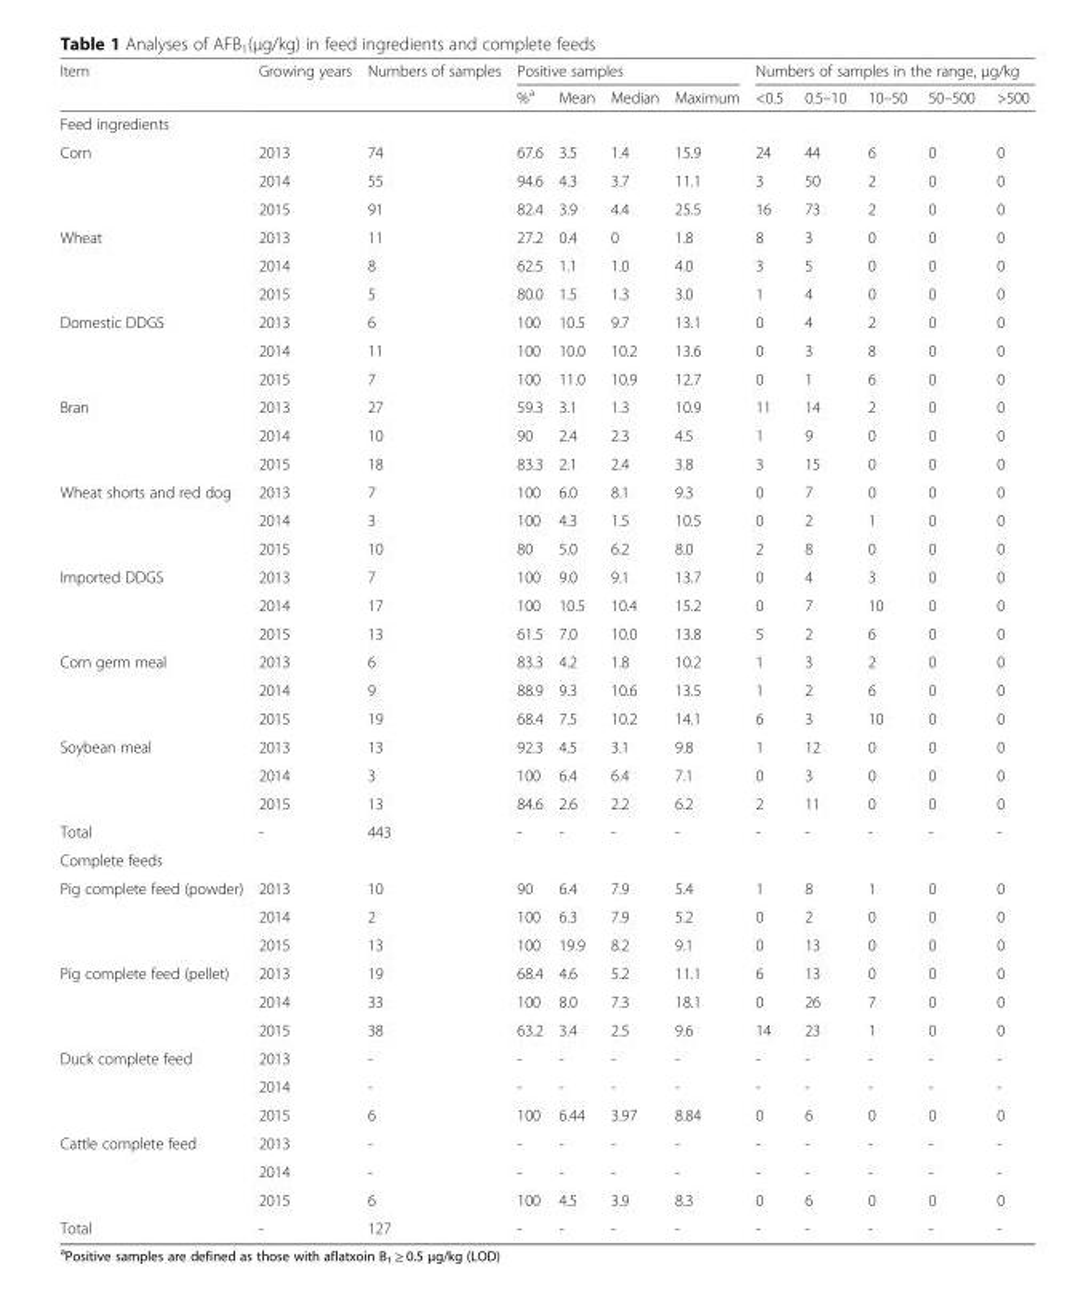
<table><thead><tr><td rowspan="2">Item</td><td rowspan="2">Growing years</td><td rowspan="2">Numbers of samples</td><td colspan="4">Positive samples</td><td colspan="5">Numbers of samples in the range, μg/kg</td></tr><tr><td>%<sup>a</sup></td><td>Mean</td><td>Median</td><td>Maximum</td><td>&lt;0.5</td><td>0.5–10</td><td>10–50</td><td>50–500</td><td>&gt;500</td></tr></thead><tbody><tr><td colspan="12">Feed ingredients</td></tr><tr><td rowspan="3">Corn</td><td>2013</td><td>74</td><td>67.6</td><td>3.5</td><td>1.4</td><td>15.9</td><td>24</td><td>44</td><td>6</td><td>0</td><td>0</td></tr><tr><td>2014</td><td>55</td><td>94.6</td><td>4.3</td><td>3.7</td><td>11.1</td><td>3</td><td>50</td><td>2</td><td>0</td><td>0</td></tr><tr><td>2015</td><td>91</td><td>82.4</td><td>3.9</td><td>4.4</td><td>25.5</td><td>16</td><td>73</td><td>2</td><td>0</td><td>0</td></tr><tr><td rowspan="3">Wheat</td><td>2013</td><td>11</td><td>27.2</td><td>0.4</td><td>0</td><td>1.8</td><td>8</td><td>3</td><td>0</td><td>0</td><td>0</td></tr><tr><td>2014</td><td>8</td><td>62.5</td><td>1.1</td><td>1.0</td><td>4.0</td><td>3</td><td>5</td><td>0</td><td>0</td><td>0</td></tr><tr><td>2015</td><td>5</td><td>80.0</td><td>1.5</td><td>1.3</td><td>3.0</td><td>1</td><td>4</td><td>0</td><td>0</td><td>0</td></tr><tr><td rowspan="3">Domestic DDGS</td><td>2013</td><td>6</td><td>100</td><td>10.5</td><td>9.7</td><td>13.1</td><td>0</td><td>4</td><td>2</td><td>0</td><td>0</td></tr><tr><td>2014</td><td>11</td><td>100</td><td>10.0</td><td>10.2</td><td>13.6</td><td>0</td><td>3</td><td>8</td><td>0</td><td>0</td></tr><tr><td>2015</td><td>7</td><td>100</td><td>11.0</td><td>10.9</td><td>12.7</td><td>0</td><td>1</td><td>6</td><td>0</td><td>0</td></tr><tr><td rowspan="3">Bran</td><td>2013</td><td>27</td><td>59.3</td><td>3.1</td><td>1.3</td><td>10.9</td><td>11</td><td>14</td><td>2</td><td>0</td><td>0</td></tr><tr><td>2014</td><td>10</td><td>90</td><td>2.4</td><td>2.3</td><td>4.5</td><td>1</td><td>9</td><td>0</td><td>0</td><td>0</td></tr><tr><td>2015</td><td>18</td><td>83.3</td><td>2.1</td><td>2.4</td><td>3.8</td><td>3</td><td>15</td><td>0</td><td>0</td><td>0</td></tr><tr><td rowspan="3">Wheat shorts and red dog</td><td>2013</td><td>7</td><td>100</td><td>6.0</td><td>8.1</td><td>9.3</td><td>0</td><td>7</td><td>0</td><td>0</td><td>0</td></tr><tr><td>2014</td><td>3</td><td>100</td><td>4.3</td><td>1.5</td><td>10.5</td><td>0</td><td>2</td><td>1</td><td>0</td><td>0</td></tr><tr><td>2015</td><td>10</td><td>80</td><td>5.0</td><td>6.2</td><td>8.0</td><td>2</td><td>8</td><td>0</td><td>0</td><td>0</td></tr><tr><td rowspan="3">Imported DDGS</td><td>2013</td><td>7</td><td>100</td><td>9.0</td><td>9.1</td><td>13.7</td><td>0</td><td>4</td><td>3</td><td>0</td><td>0</td></tr><tr><td>2014</td><td>17</td><td>100</td><td>10.5</td><td>10.4</td><td>15.2</td><td>0</td><td>7</td><td>10</td><td>0</td><td>0</td></tr><tr><td>2015</td><td>13</td><td>61.5</td><td>7.0</td><td>10.0</td><td>13.8</td><td>5</td><td>2</td><td>6</td><td>0</td><td>0</td></tr><tr><td rowspan="3">Corn germ meal</td><td>2013</td><td>6</td><td>83.3</td><td>4.2</td><td>1.8</td><td>10.2</td><td>1</td><td>3</td><td>2</td><td>0</td><td>0</td></tr><tr><td>2014</td><td>9</td><td>88.9</td><td>9.3</td><td>10.6</td><td>13.5</td><td>1</td><td>2</td><td>6</td><td>0</td><td>0</td></tr><tr><td>2015</td><td>19</td><td>68.4</td><td>7.5</td><td>10.2</td><td>14.1</td><td>6</td><td>3</td><td>10</td><td>0</td><td>0</td></tr><tr><td rowspan="3">Soybean meal</td><td>2013</td><td>13</td><td>92.3</td><td>4.5</td><td>3.1</td><td>9.8</td><td>1</td><td>12</td><td>0</td><td>0</td><td>0</td></tr><tr><td>2014</td><td>3</td><td>100</td><td>6.4</td><td>6.4</td><td>7.1</td><td>0</td><td>3</td><td>0</td><td>0</td><td>0</td></tr><tr><td>2015</td><td>13</td><td>84.6</td><td>2.6</td><td>2.2</td><td>6.2</td><td>2</td><td>11</td><td>0</td><td>0</td><td>0</td></tr><tr><td>Total</td><td>-</td><td>443</td><td>-</td><td>-</td><td>-</td><td>-</td><td>-</td><td>-</td><td>-</td><td>-</td><td>-</td></tr><tr><td colspan="12">Complete feeds</td></tr><tr><td rowspan="3">Pig complete feed (powder)</td><td>2013</td><td>10</td><td>90</td><td>6.4</td><td>7.9</td><td>5.4</td><td>1</td><td>8</td><td>1</td><td>0</td><td>0</td></tr><tr><td>2014</td><td>2</td><td>100</td><td>6.3</td><td>7.9</td><td>5.2</td><td>0</td><td>2</td><td>0</td><td>0</td><td>0</td></tr><tr><td>2015</td><td>13</td><td>100</td><td>19.9</td><td>8.2</td><td>9.1</td><td>0</td><td>13</td><td>0</td><td>0</td><td>0</td></tr><tr><td rowspan="3">Pig complete feed (pellet)</td><td>2013</td><td>19</td><td>68.4</td><td>4.6</td><td>5.2</td><td>11.1</td><td>6</td><td>13</td><td>0</td><td>0</td><td>0</td></tr><tr><td>2014</td><td>33</td><td>100</td><td>8.0</td><td>7.3</td><td>18.1</td><td>0</td><td>26</td><td>7</td><td>0</td><td>0</td></tr><tr><td>2015</td><td>38</td><td>63.2</td><td>3.4</td><td>2.5</td><td>9.6</td><td>14</td><td>23</td><td>1</td><td>0</td><td>0</td></tr><tr><td rowspan="3">Duck complete feed</td><td>2013</td><td>-</td><td>-</td><td>-</td><td>-</td><td>-</td><td>-</td><td>-</td><td>-</td><td>-</td><td>-</td></tr><tr><td>2014</td><td>-</td><td>-</td><td>-</td><td>-</td><td>-</td><td>-</td><td>-</td><td>-</td><td>-</td><td>-</td></tr><tr><td>2015</td><td>6</td><td>100</td><td>6.44</td><td>3.97</td><td>8.84</td><td>0</td><td>6</td><td>0</td><td>0</td><td>0</td></tr><tr><td rowspan="3">Cattle complete feed</td><td>2013</td><td>-</td><td>-</td><td>-</td><td>-</td><td>-</td><td>-</td><td>-</td><td>-</td><td>-</td><td>-</td></tr><tr><td>2014</td><td>-</td><td>-</td><td>-</td><td>-</td><td>-</td><td>-</td><td>-</td><td>-</td><td>-</td><td>-</td></tr><tr><td>2015</td><td>6</td><td>100</td><td>4.5</td><td>3.9</td><td>8.3</td><td>0</td><td>6</td><td>0</td><td>0</td><td>0</td></tr><tr><td>Total</td><td>-</td><td>127</td><td>-</td><td>-</td><td>-</td><td>-</td><td>-</td><td>-</td><td>-</td><td>-</td><td>-</td></tr></tbody></table>